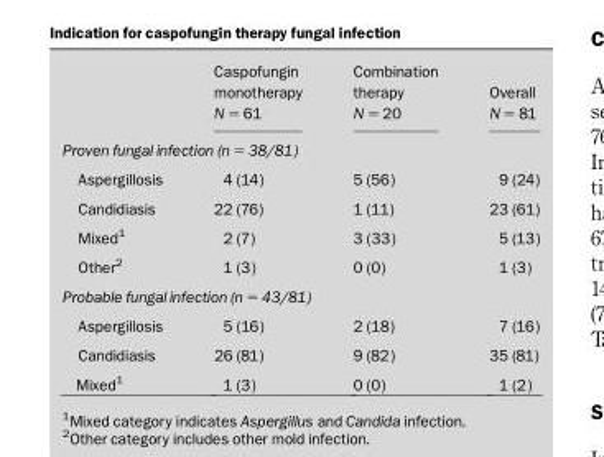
<table><thead><tr><td></td><td>Caspofungin monotherapy N = 61</td><td>Combination therapy N = 20</td><td>Overall N = 81</td></tr></thead><tbody><tr><td colspan="4">Proven fungal infection (n = 38/81)</td></tr><tr><td>Aspergillosis</td><td>4 (14)</td><td>5 (56)</td><td>9 (24)</td></tr><tr><td>Candidiasis</td><td>22 (76)</td><td>1 (11)</td><td>23 (61)</td></tr><tr><td>Mixed<sup>1</sup></td><td>2 (7)</td><td>3 (33)</td><td>5 (13)</td></tr><tr><td>Other<sup>2</sup></td><td>1 (3)</td><td>0 (0)</td><td>1 (3)</td></tr><tr><td colspan="4">Probable fungal infection (n = 43/81)</td></tr><tr><td>Aspergillosis</td><td>5 (16)</td><td>2 (18)</td><td>7 (16)</td></tr><tr><td>Candidiasis</td><td>26 (81)</td><td>9 (82)</td><td>35 (81)</td></tr><tr><td>Mixed<sup>1</sup></td><td>1 (3)</td><td>0 (0)</td><td>1 (2)</td></tr></tbody></table>